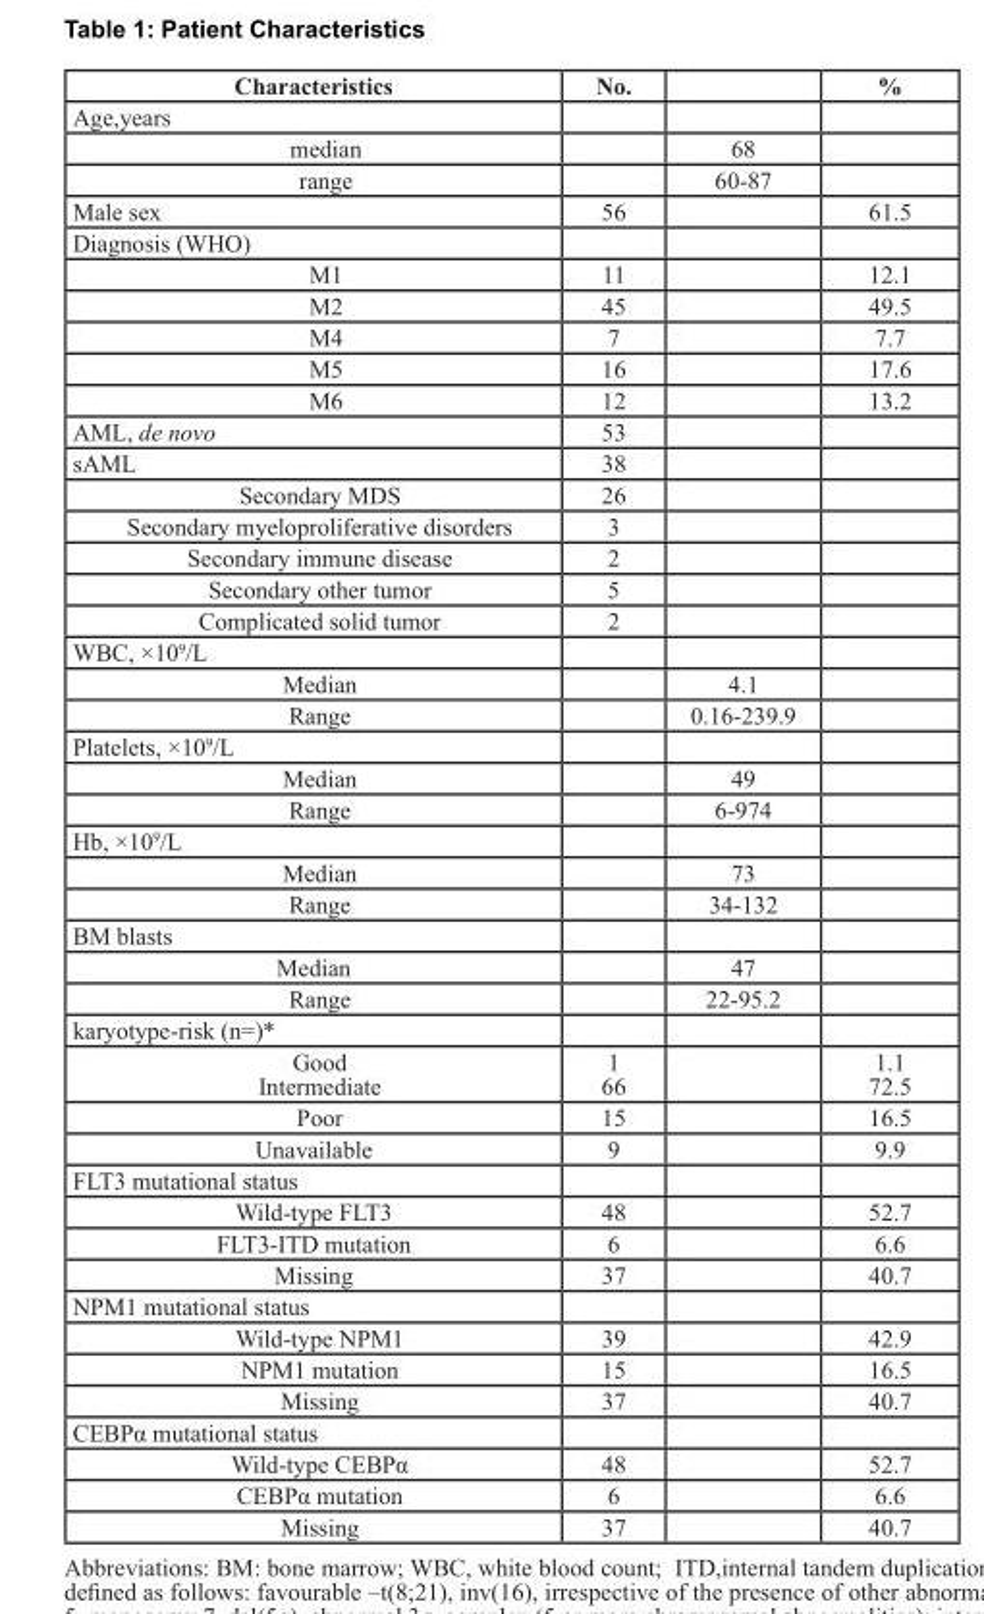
<table><thead><tr><td>Characteristics</td><td>No.</td><td></td><td>%</td></tr></thead><tbody><tr><td colspan="4">Age,years</td></tr><tr><td>median</td><td></td><td>68</td><td></td></tr><tr><td>range</td><td></td><td>60-87</td><td></td></tr><tr><td>Male sex</td><td>56</td><td></td><td>61.5</td></tr><tr><td colspan="4">Diagnosis (WHO)</td></tr><tr><td>M1</td><td>11</td><td></td><td>12.1</td></tr><tr><td>M2</td><td>45</td><td></td><td>49.5</td></tr><tr><td>M4</td><td>7</td><td></td><td>7.7</td></tr><tr><td>M5</td><td>16</td><td></td><td>17.6</td></tr><tr><td>M6</td><td>12</td><td></td><td>13.2</td></tr><tr><td>AML, de novo</td><td>53</td><td></td><td></td></tr><tr><td>sAML</td><td>38</td><td></td><td></td></tr><tr><td>Secondary MDS</td><td>26</td><td></td><td></td></tr><tr><td>Secondary myeloproliferative disorders</td><td>3</td><td></td><td></td></tr><tr><td>Secondary immune disease</td><td>2</td><td></td><td></td></tr><tr><td>Secondary other tumor</td><td>5</td><td></td><td></td></tr><tr><td>Complicated solid tumor</td><td>2</td><td></td><td></td></tr><tr><td colspan="4">WBC, ×10<sup>9</sup>/L</td></tr><tr><td>Median</td><td></td><td>4.1</td><td></td></tr><tr><td>Range</td><td></td><td>0.16-239.9</td><td></td></tr><tr><td colspan="4">Platelets, ×10<sup>9</sup>/L</td></tr><tr><td>Median</td><td></td><td>49</td><td></td></tr><tr><td>Range</td><td></td><td>6-974</td><td></td></tr><tr><td colspan="4">Hb, ×10<sup>9</sup>/L</td></tr><tr><td>Median</td><td></td><td>73</td><td></td></tr><tr><td>Range</td><td></td><td>34-132</td><td></td></tr><tr><td colspan="4">BM blasts</td></tr><tr><td>Median</td><td></td><td>47</td><td></td></tr><tr><td>Range</td><td></td><td>22-95.2</td><td></td></tr><tr><td colspan="4">karyotype-risk (n=)*</td></tr><tr><td>Good Intermediate</td><td>1 66</td><td></td><td>1.1 72.5</td></tr><tr><td>Poor</td><td>15</td><td></td><td>16.5</td></tr><tr><td>Unavailable</td><td>9</td><td></td><td>9.9</td></tr><tr><td colspan="4">FLT3 mutational status</td></tr><tr><td>Wild-type FLT3</td><td>48</td><td></td><td>52.7</td></tr><tr><td>FLT3-ITD mutation</td><td>6</td><td></td><td>6.6</td></tr><tr><td>Missing</td><td>37</td><td></td><td>40.7</td></tr><tr><td colspan="4">NPM1 mutational status</td></tr><tr><td>Wild-type NPM1</td><td>39</td><td></td><td>42.9</td></tr><tr><td>NPM1 mutation</td><td>15</td><td></td><td>16.5</td></tr><tr><td>Missing</td><td>37</td><td></td><td>40.7</td></tr><tr><td colspan="4">CEBPα mutational status</td></tr><tr><td>Wild-type CEBPα</td><td>48</td><td></td><td>52.7</td></tr><tr><td>CEBPα mutation</td><td>6</td><td></td><td>6.6</td></tr><tr><td>Missing</td><td>37</td><td></td><td>40.7</td></tr></tbody></table>